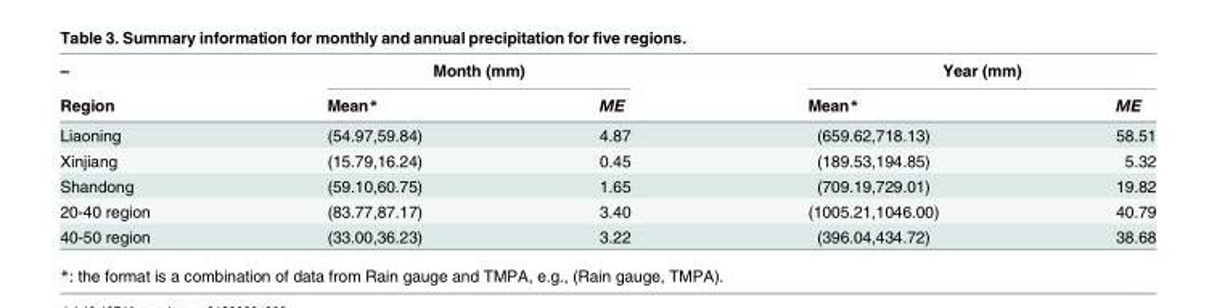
<table><thead><tr><td rowspan="2">– Region</td><td colspan="2">Month (mm)</td><td colspan="2">Year (mm)</td></tr><tr><td>Mean*</td><td>ME</td><td>Mean*</td><td>ME</td></tr></thead><tbody><tr><td>Liaoning</td><td>(54.97,59.84)</td><td>4.87</td><td>(659.62,718.13)</td><td>58.51</td></tr><tr><td>Xinjiang</td><td>(15.79,16.24)</td><td>0.45</td><td>(189.53,194.85)</td><td>5.32</td></tr><tr><td>Shandong</td><td>(59.10,60.75)</td><td>1.65</td><td>(709.19,729.01)</td><td>19.82</td></tr><tr><td>20-40 region</td><td>(83.77,87.17)</td><td>3.40</td><td>(1005.21,1046.00)</td><td>40.79</td></tr><tr><td>40-50 region</td><td>(33.00,36.23)</td><td>3.22</td><td>(396.04,434.72)</td><td>38.68</td></tr></tbody></table>